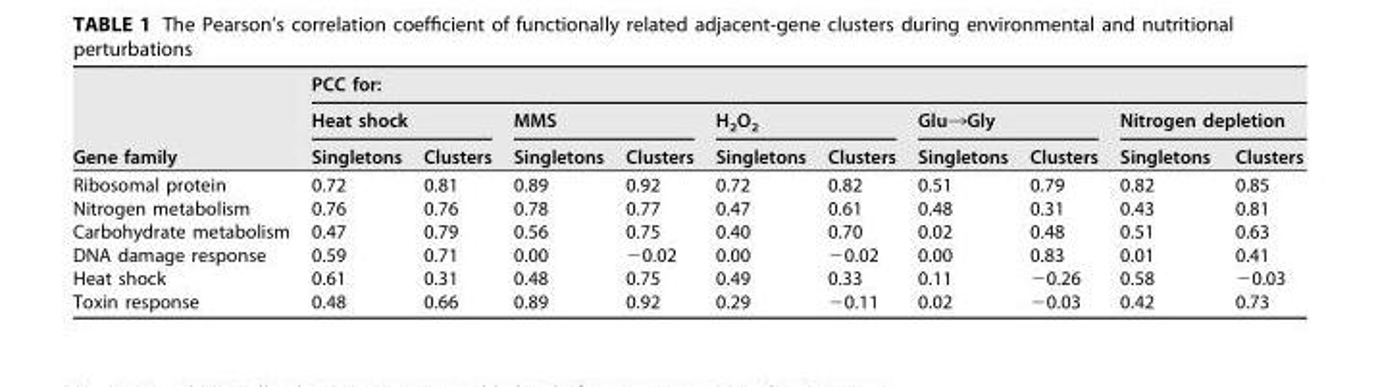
<table><thead><tr><td rowspan="3">Gene family</td><td colspan="10">PCC for:</td></tr><tr><td colspan="2">Heat shock</td><td colspan="2">MMS</td><td colspan="2">H<sub>2</sub>O<sub>2</sub></td><td colspan="2">Glu→Gly</td><td colspan="2">Nitrogen depletion</td></tr><tr><td>Singletons</td><td>Clusters</td><td>Singletons</td><td>Clusters</td><td>Singletons</td><td>Clusters</td><td>Singletons</td><td>Clusters</td><td>Singletons</td><td>Clusters</td></tr></thead><tbody><tr><td>Ribosomal protein</td><td>0.72</td><td>0.81</td><td>0.89</td><td>0.92</td><td>0.72</td><td>0.82</td><td>0.51</td><td>0.79</td><td>0.82</td><td>0.85</td></tr><tr><td>Nitrogen metabolism</td><td>0.76</td><td>0.76</td><td>0.78</td><td>0.77</td><td>0.47</td><td>0.61</td><td>0.48</td><td>0.31</td><td>0.43</td><td>0.81</td></tr><tr><td>Carbohydrate metabolism</td><td>0.47</td><td>0.79</td><td>0.56</td><td>0.75</td><td>0.40</td><td>0.70</td><td>0.02</td><td>0.48</td><td>0.51</td><td>0.63</td></tr><tr><td>DNA damage response</td><td>0.59</td><td>0.71</td><td>0.00</td><td>−0.02</td><td>0.00</td><td>−0.02</td><td>0.00</td><td>0.83</td><td>0.01</td><td>0.41</td></tr><tr><td>Heat shock</td><td>0.61</td><td>0.31</td><td>0.48</td><td>0.75</td><td>0.49</td><td>0.33</td><td>0.11</td><td>−0.26</td><td>0.58</td><td>−0.03</td></tr><tr><td>Toxin response</td><td>0.48</td><td>0.66</td><td>0.89</td><td>0.92</td><td>0.29</td><td>−0.11</td><td>0.02</td><td>−0.03</td><td>0.42</td><td>0.73</td></tr></tbody></table>